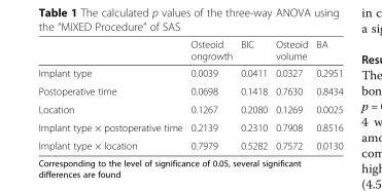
<table><thead><tr><td></td><td>Osteoid ongrowth</td><td>BIC</td><td>Osteoid volume</td><td>BA</td></tr></thead><tbody><tr><td>Implant type</td><td>0.0039</td><td>0.0411</td><td>0.0327</td><td>0.2951</td></tr><tr><td>Postoperative time</td><td>0.0698</td><td>0.1418</td><td>0.7630</td><td>0.8434</td></tr><tr><td>Location</td><td>0.1267</td><td>0.2080</td><td>0.1269</td><td>0.0025</td></tr><tr><td>Implant type × postoperative time</td><td>0.2139</td><td>0.2310</td><td>0.7908</td><td>0.8516</td></tr><tr><td>Implant type × location</td><td>0.7979</td><td>0.5282</td><td>0.7572</td><td>0.0130</td></tr></tbody></table>